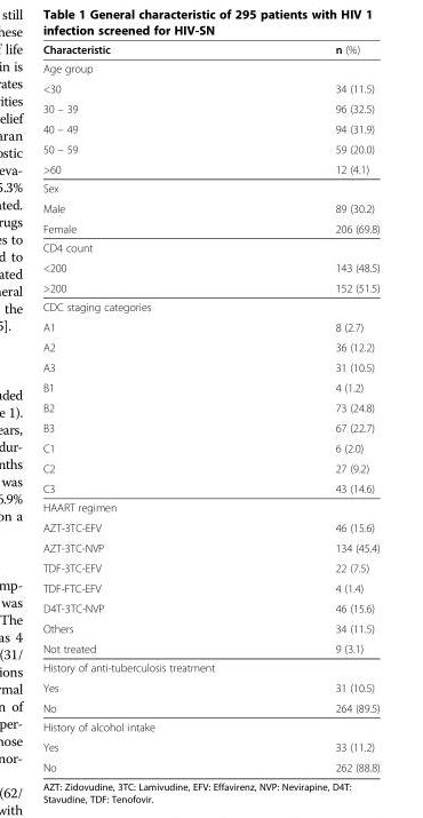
<table><thead><tr><td>Characteristic</td><td>n (%)</td></tr></thead><tbody><tr><td colspan="2">Age group</td></tr><tr><td>&lt;30</td><td>34 (11.5)</td></tr><tr><td>30 – 39</td><td>96 (32.5)</td></tr><tr><td>40 – 49</td><td>94 (31.9)</td></tr><tr><td>50 – 59</td><td>59 (20.0)</td></tr><tr><td>&gt;60</td><td>12 (4.1)</td></tr><tr><td colspan="2">Sex</td></tr><tr><td>Male</td><td>89 (30.2)</td></tr><tr><td>Female</td><td>206 (69.8)</td></tr><tr><td colspan="2">CD4 count</td></tr><tr><td>&lt;200</td><td>143 (48.5)</td></tr><tr><td>&gt;200</td><td>152 (51.5)</td></tr><tr><td colspan="2">CDC staging categories</td></tr><tr><td>A1</td><td>8 (2.7)</td></tr><tr><td>A2</td><td>36 (12.2)</td></tr><tr><td>A3</td><td>31 (10.5)</td></tr><tr><td>B1</td><td>4 (1.2)</td></tr><tr><td>B2</td><td>73 (24.8)</td></tr><tr><td>B3</td><td>67 (22.7)</td></tr><tr><td>C1</td><td>6 (2.0)</td></tr><tr><td>C2</td><td>27 (9.2)</td></tr><tr><td>C3</td><td>43 (14.6)</td></tr><tr><td colspan="2">HAART regimen</td></tr><tr><td>AZT-3TC-EFV</td><td>46 (15.6)</td></tr><tr><td>AZT-3TC-NVP</td><td>134 (45.4)</td></tr><tr><td>TDF-3TC-EFV</td><td>22 (7.5)</td></tr><tr><td>TDF-FTC-EFV</td><td>4 (1.4)</td></tr><tr><td>D4T-3TC-NVP</td><td>46 (15.6)</td></tr><tr><td>Others</td><td>34 (11.5)</td></tr><tr><td>Not treated</td><td>9 (3.1)</td></tr><tr><td colspan="2">History of anti-tuberculosis treatment</td></tr><tr><td>Yes</td><td>31 (10.5)</td></tr><tr><td>No</td><td>264 (89.5)</td></tr><tr><td colspan="2">History of alcohol intake</td></tr><tr><td>Yes</td><td>33 (11.2)</td></tr><tr><td>No</td><td>262 (88.8)</td></tr></tbody></table>